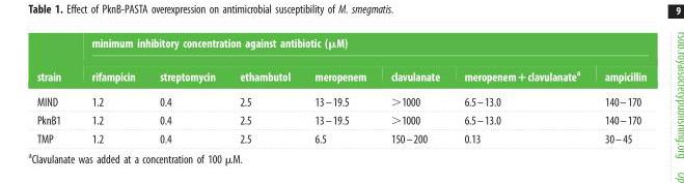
<table><thead><tr><td rowspan="2">strain</td><td colspan="7">minimum inhibitory concentration against antibiotic (µM)</td></tr><tr><td>rifampicin</td><td>streptomycin</td><td>ethambutol</td><td>meropenem</td><td>clavulanate</td><td>meropenem+clavulanate<sup>a</sup></td><td>ampicillin</td></tr></thead><tbody><tr><td>MIND</td><td>1.2</td><td>0.4</td><td>2.5</td><td>13–19.5</td><td>&gt;1000</td><td>6.5–13.0</td><td>140–170</td></tr><tr><td>PknB1</td><td>1.2</td><td>0.4</td><td>2.5</td><td>13–19.5</td><td>&gt;1000</td><td>6.5–13.0</td><td>140–170</td></tr><tr><td>TMP</td><td>1.2</td><td>0.4</td><td>2.5</td><td>6.5</td><td>150–200</td><td>0.13</td><td>30–45</td></tr></tbody></table>